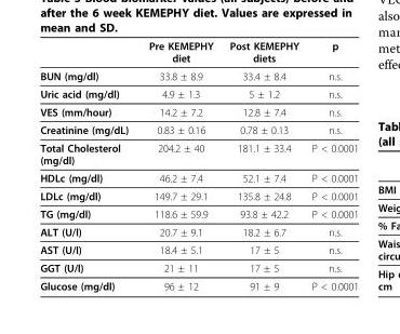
<table><thead><tr><td></td><td>Pre KEMEPHY diet</td><td>Post KEMEPHY diets</td><td>p</td></tr></thead><tbody><tr><td>BUN (mg/dl)</td><td>33.8 ± 8.9</td><td>33.4 ± 8.4</td><td>n.s.</td></tr><tr><td>Uric acid (mg/dl)</td><td>4.9 ± 1.3</td><td>5 ± 1.2</td><td>n.s.</td></tr><tr><td>VES (mm/hour)</td><td>14.2 ± 7.2</td><td>12.8 ± 7.4</td><td>n.s.</td></tr><tr><td>Creatinine (mg/dL)</td><td>0.83 ± 0.16</td><td>0.78 ± 0.13</td><td>n.s.</td></tr><tr><td>Total Cholesterol (mg/dl)</td><td>204.2 ± 40</td><td>181.1 ± 33.4</td><td>P &lt; 0.0001</td></tr><tr><td>HDLc (mg/dl)</td><td>46.2 ± 7.4</td><td>52.1 ± 7.4</td><td>P &lt; 0.0001</td></tr><tr><td>LDLc (mg/dl)</td><td>149.7 ± 29.1</td><td>135.8 ± 24.8</td><td>P &lt; 0.0001</td></tr><tr><td>TG (mg/dl)</td><td>118.6 ± 59.9</td><td>93.8 ± 42.2</td><td>P &lt; 0.0001</td></tr><tr><td>ALT (U/l)</td><td>20.7 ± 9.1</td><td>18.2 ± 6.7</td><td>n.s.</td></tr><tr><td>AST (U/l)</td><td>18.4 ± 5.1</td><td>17 ± 5</td><td>n.s.</td></tr><tr><td>GGT (U/l)</td><td>21 ± 11</td><td>17 ± 5</td><td>n.s.</td></tr><tr><td>Glucose (mg/dl)</td><td>96 ± 12</td><td>91 ± 9</td><td>P &lt; 0.0001</td></tr></tbody></table>